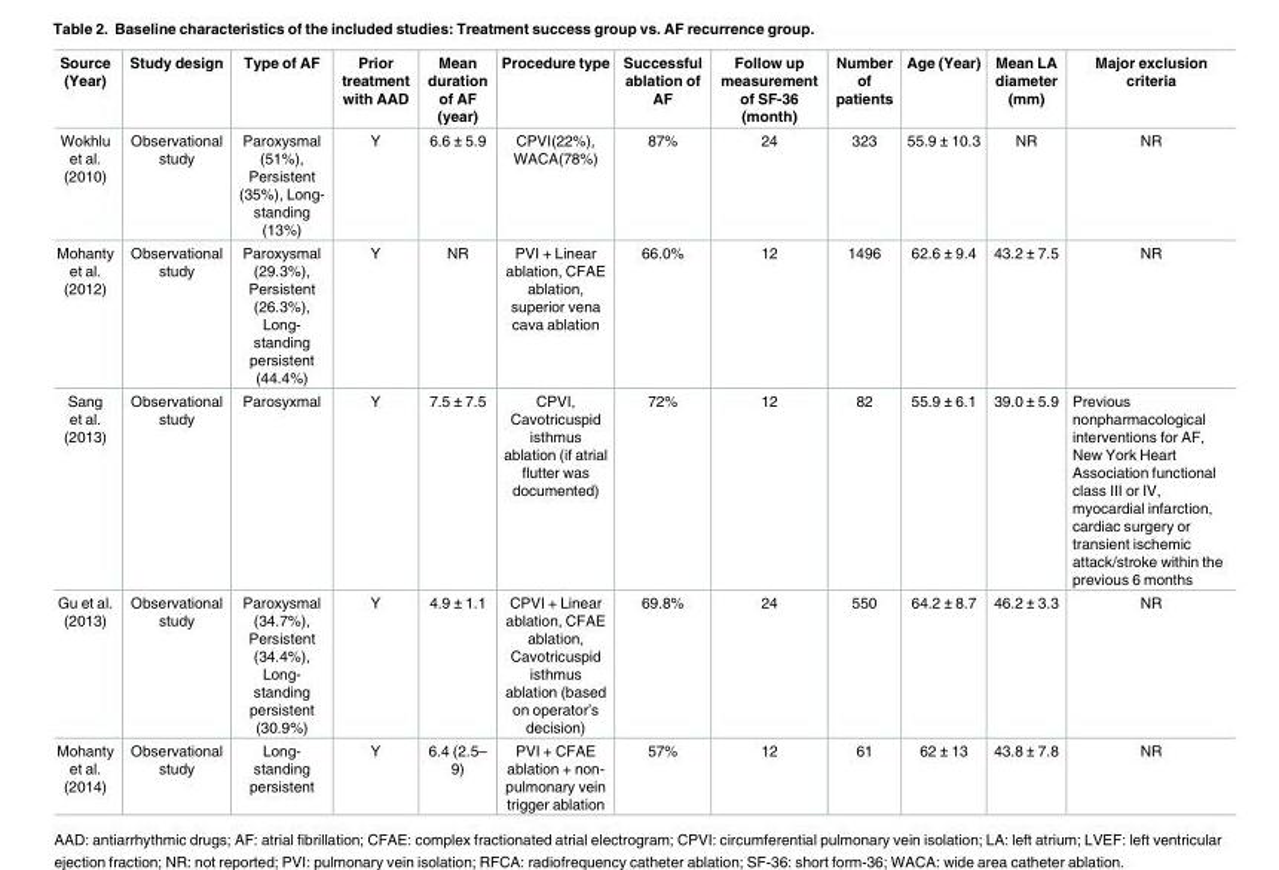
<table><thead><tr><td>Source (Year)</td><td>Study design</td><td>Type of AF</td><td>Prior treatment with AAD</td><td>Mean duration of AF (year)</td><td>Procedure type</td><td>Successful ablation of AF</td><td>Follow up measurement of SF-36 (month)</td><td>Number of patients</td><td>Age (Year)</td><td>Mean LA diameter (mm)</td><td>Major exclusion criteria</td></tr></thead><tbody><tr><td>Wokhlu et al. (2010)</td><td>Observational study</td><td>Paroxysmal (51%), Persistent (35%), Long- standing (13%)</td><td>Y</td><td>6.6 ± 5.9</td><td>CPVI(22%), WACA(78%)</td><td>87%</td><td>24</td><td>323</td><td>55.9 ± 10.3</td><td>NR</td><td>NR</td></tr><tr><td>Mohanty et al. (2012)</td><td>Observational study</td><td>Paroxysmal (29.3%), Persistent (26.3%), Long- standing persistent (44.4%)</td><td>Y</td><td>NR</td><td>PVI + Linear ablation, CFAE ablation, superior vena cava ablation</td><td>66.0%</td><td>12</td><td>1496</td><td>62.6 ± 9.4</td><td>43.2 ± 7.5</td><td>NR</td></tr><tr><td>Sang et al. (2013)</td><td>Observational study</td><td>Parosyxmal</td><td>Y</td><td>7.5 ± 7.5</td><td>CPVI, Cavotricuspid isthmus ablation (if atrial flutter was documented)</td><td>72%</td><td>12</td><td>82</td><td>55.9 ± 6.1</td><td>39.0 ± 5.9</td><td>Previous nonpharmacological interventions for AF, New York Heart Association functional class III or IV, myocardial infarction, cardiac surgery or transient ischemic attack/stroke within the previous 6 months</td></tr><tr><td>Gu et al. (2013)</td><td>Observational study</td><td>Paroxysmal (34.7%), Persistent (34.4%), Long- standing persistent (30.9%)</td><td>Y</td><td>4.9 ± 1.1</td><td>CPVI + Linear ablation, CFAE ablation, Cavotricuspid isthmus ablation (based on operator’s decision)</td><td>69.8%</td><td>24</td><td>550</td><td>64.2 ± 8.7</td><td>46.2 ± 3.3</td><td>NR</td></tr><tr><td>Mohanty et al. (2014)</td><td>Observational study</td><td>Long- standing persistent</td><td>Y</td><td>6.4 (2.5– 9)</td><td>PVI + CFAE ablation + non- pulmonary vein trigger ablation</td><td>57%</td><td>12</td><td>61</td><td>62 ± 13</td><td>43.8 ± 7.8</td><td>NR</td></tr></tbody></table>